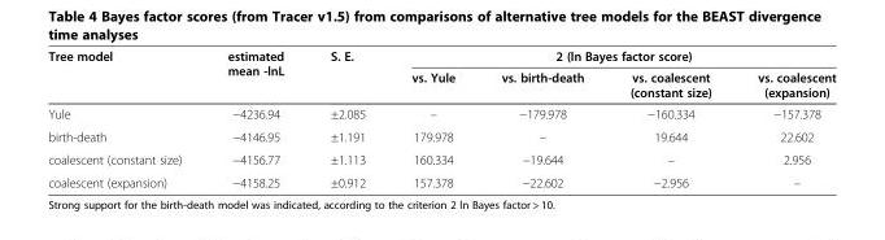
<table><thead><tr><td rowspan="2">Tree model</td><td rowspan="2">estimated mean -lnL</td><td rowspan="2">S. E.</td><td colspan="4">2 (ln Bayes factor score)</td></tr><tr><td>vs. Yule</td><td>vs. birth-death</td><td>vs. coalescent (constant size)</td><td>vs. coalescent (expansion)</td></tr></thead><tbody><tr><td>Yule</td><td>−4236.94</td><td>±2.085</td><td>–</td><td>−179.978</td><td>−160.334</td><td>−157.378</td></tr><tr><td>birth-death</td><td>−4146.95</td><td>±1.191</td><td>179.978</td><td>–</td><td>19.644</td><td>22.602</td></tr><tr><td>coalescent (constant size)</td><td>−4156.77</td><td>±1.113</td><td>160.334</td><td>−19.644</td><td>–</td><td>2.956</td></tr><tr><td>coalescent (expansion)</td><td>−4158.25</td><td>±0.912</td><td>157.378</td><td>−22.602</td><td>−2.956</td><td>–</td></tr></tbody></table>